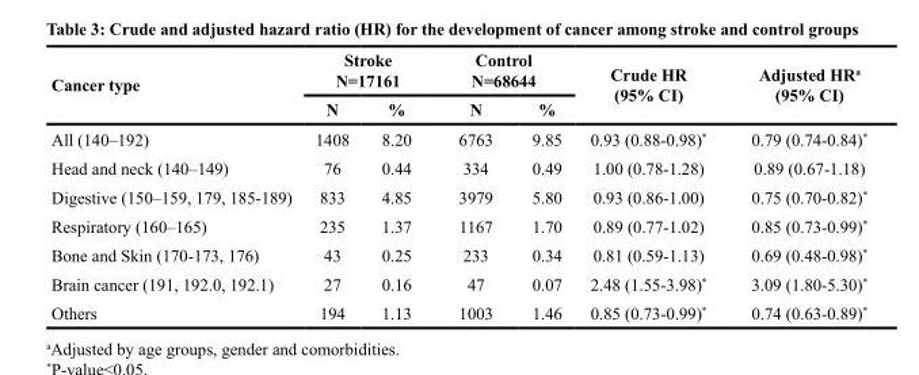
<table><thead><tr><td rowspan="2">Cancer type</td><td colspan="2">Stroke N=17161</td><td colspan="2">Control N=68644</td><td rowspan="2">Crude HR (95% CI)</td><td rowspan="2">Adjusted HR<sup>a</sup> (95% CI)</td></tr><tr><td>N</td><td>%</td><td>N</td><td>%</td></tr></thead><tbody><tr><td>All (140–192)</td><td>1408</td><td>8.20</td><td>6763</td><td>9.85</td><td>0.93 (0.88-0.98)*</td><td>0.79 (0.74-0.84)*</td></tr><tr><td>Head and neck (140–149)</td><td>76</td><td>0.44</td><td>334</td><td>0.49</td><td>1.00 (0.78-1.28)</td><td>0.89 (0.67-1.18)</td></tr><tr><td>Digestive (150–159, 179, 185-189)</td><td>833</td><td>4.85</td><td>3979</td><td>5.80</td><td>0.93 (0.86-1.00)</td><td>0.75 (0.70-0.82)*</td></tr><tr><td>Respiratory (160–165)</td><td>235</td><td>1.37</td><td>1167</td><td>1.70</td><td>0.89 (0.77-1.02)</td><td>0.85 (0.73-0.99)*</td></tr><tr><td>Bone and Skin (170-173, 176)</td><td>43</td><td>0.25</td><td>233</td><td>0.34</td><td>0.81 (0.59-1.13)</td><td>0.69 (0.48-0.98)*</td></tr><tr><td>Brain cancer (191, 192.0, 192.1)</td><td>27</td><td>0.16</td><td>47</td><td>0.07</td><td>2.48 (1.55-3.98)*</td><td>3.09 (1.80-5.30)*</td></tr><tr><td>Others</td><td>194</td><td>1.13</td><td>1003</td><td>1.46</td><td>0.85 (0.73-0.99)*</td><td>0.74 (0.63-0.89)*</td></tr></tbody></table>